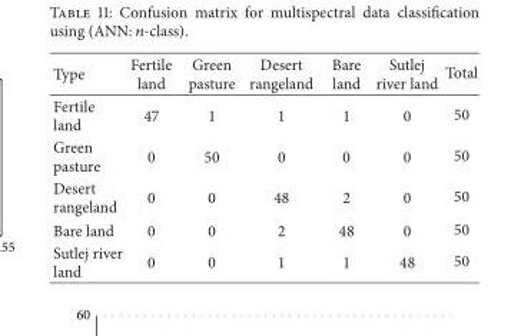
<table><thead><tr><td>Type</td><td>Fertile land</td><td>Green pasture</td><td>Desert rangeland</td><td>Bare land</td><td>Sutlej river land</td><td>Total</td></tr></thead><tbody><tr><td>Fertile land</td><td>47</td><td>1</td><td>1</td><td>1</td><td>0</td><td>50</td></tr><tr><td>Green pasture</td><td>0</td><td>50</td><td>0</td><td>0</td><td>0</td><td>50</td></tr><tr><td>Desert rangeland</td><td>0</td><td>0</td><td>48</td><td>2</td><td>0</td><td>50</td></tr><tr><td>Bare land</td><td>0</td><td>0</td><td>2</td><td>48</td><td>0</td><td>50</td></tr><tr><td>Sutlej river land</td><td>0</td><td>0</td><td>1</td><td>1</td><td>48</td><td>50</td></tr></tbody></table>